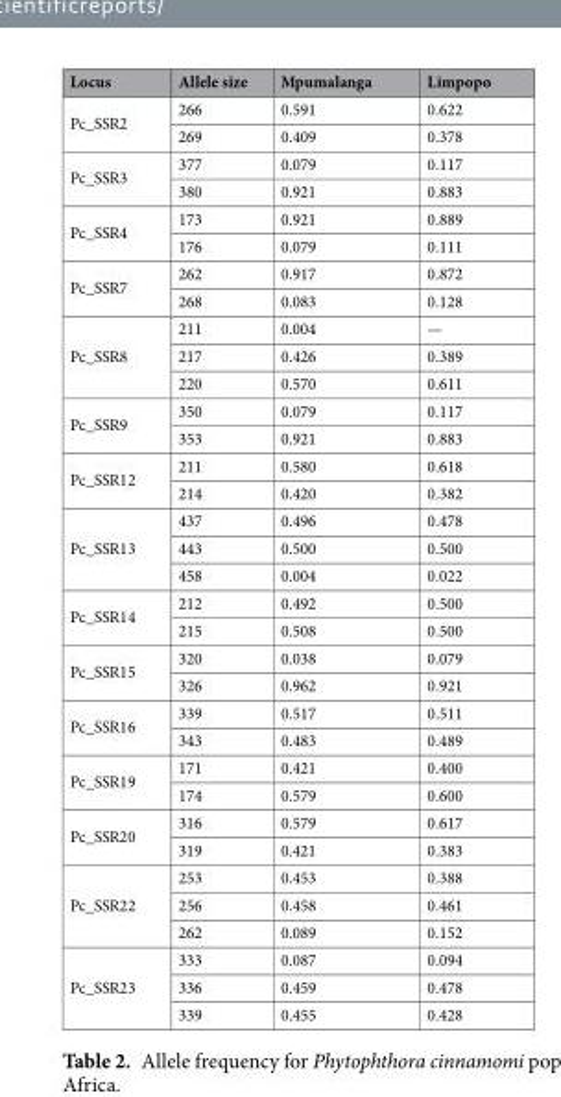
<table><thead><tr><td>Locus</td><td>Allele size</td><td>Mpumalanga</td><td>Limpopo</td></tr></thead><tbody><tr><td rowspan="2">Pc_SSR2</td><td>266</td><td>0.591</td><td>0.622</td></tr><tr><td>269</td><td>0.409</td><td>0.378</td></tr><tr><td rowspan="2">Pc_SSR3</td><td>377</td><td>0.079</td><td>0.117</td></tr><tr><td>380</td><td>0.921</td><td>0.883</td></tr><tr><td rowspan="2">Pc_SSR4</td><td>173</td><td>0.921</td><td>0.889</td></tr><tr><td>176</td><td>0.079</td><td>0.111</td></tr><tr><td rowspan="2">Pc_SSR7</td><td>262</td><td>0.917</td><td>0.872</td></tr><tr><td>268</td><td>0.083</td><td>0.128</td></tr><tr><td rowspan="3">Pc_SSR8</td><td>211</td><td>0.004</td><td>—</td></tr><tr><td>217</td><td>0.426</td><td>0.389</td></tr><tr><td>220</td><td>0.570</td><td>0.611</td></tr><tr><td rowspan="2">Pc_SSR9</td><td>350</td><td>0.079</td><td>0.117</td></tr><tr><td>353</td><td>0.921</td><td>0.883</td></tr><tr><td rowspan="2">Pc_SSR12</td><td>211</td><td>0.580</td><td>0.618</td></tr><tr><td>214</td><td>0.420</td><td>0.382</td></tr><tr><td rowspan="3">Pc_SSR13</td><td>437</td><td>0.496</td><td>0.478</td></tr><tr><td>443</td><td>0.500</td><td>0.500</td></tr><tr><td>458</td><td>0.004</td><td>0.022</td></tr><tr><td rowspan="2">Pc_SSR14</td><td>212</td><td>0.492</td><td>0.500</td></tr><tr><td>215</td><td>0.508</td><td>0.500</td></tr><tr><td rowspan="2">Pc_SSR15</td><td>320</td><td>0.038</td><td>0.079</td></tr><tr><td>326</td><td>0.962</td><td>0.921</td></tr><tr><td rowspan="2">Pc_SSR16</td><td>339</td><td>0.517</td><td>0.511</td></tr><tr><td>343</td><td>0.483</td><td>0.489</td></tr><tr><td rowspan="2">Pc_SSR19</td><td>171</td><td>0.421</td><td>0.400</td></tr><tr><td>174</td><td>0.579</td><td>0.600</td></tr><tr><td rowspan="2">Pc_SSR20</td><td>316</td><td>0.579</td><td>0.617</td></tr><tr><td>319</td><td>0.421</td><td>0.383</td></tr><tr><td rowspan="3">Pc_SSR22</td><td>253</td><td>0.453</td><td>0.388</td></tr><tr><td>256</td><td>0.458</td><td>0.461</td></tr><tr><td>262</td><td>0.089</td><td>0.152</td></tr><tr><td rowspan="3">Pc_SSR23</td><td>333</td><td>0.087</td><td>0.094</td></tr><tr><td>336</td><td>0.459</td><td>0.478</td></tr><tr><td>339</td><td>0.455</td><td>0.428</td></tr></tbody></table>